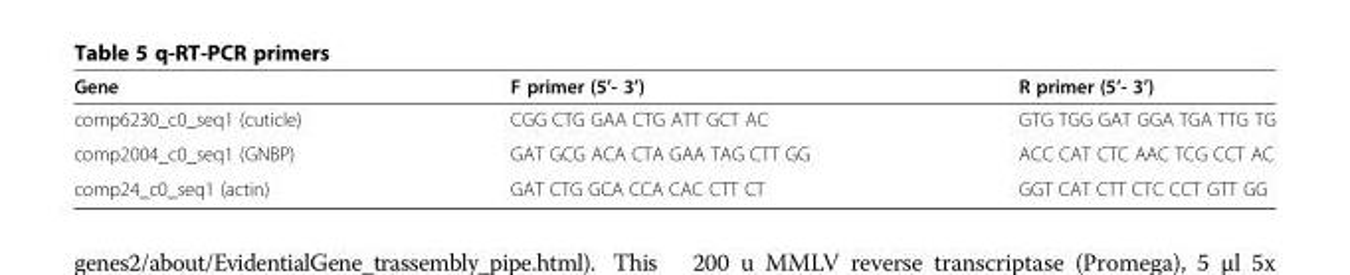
<table><thead><tr><td>Gene</td><td>F primer (5’- 3’)</td><td>R primer (5’- 3’)</td></tr></thead><tbody><tr><td>comp6230_c0_seq1 (cuticle)</td><td>CGG CTG GAA CTG ATT GCT AC</td><td>GTG TGG GAT GGA TGA TTG TG</td></tr><tr><td>comp2004_c0_seq1 (GNBP)</td><td>GAT GCG ACA CTA GAA TAG CTT GG</td><td>ACC CAT CTC AAC TCG CCT AC</td></tr><tr><td>comp24_c0_seq1 (actin)</td><td>GAT CTG GCA CCA CAC CTT CT</td><td>GGT CAT CTT CTC CCT GTT GG</td></tr></tbody></table>